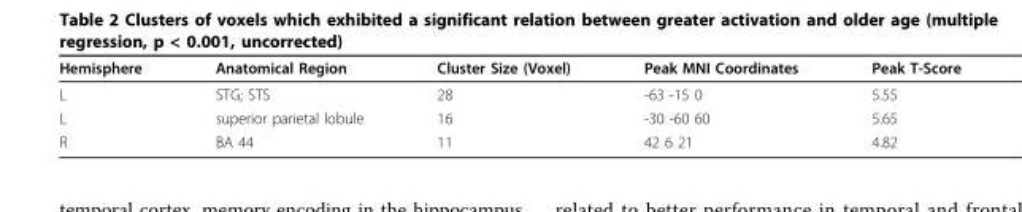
<table><thead><tr><td>Hemisphere</td><td>Anatomical Region</td><td>Cluster Size (Voxel)</td><td>Peak MNI Coordinates</td><td>Peak T-Score</td></tr></thead><tbody><tr><td>L</td><td>STG; STS</td><td>28</td><td>-63 -15 0</td><td>5.55</td></tr><tr><td>L</td><td>superior parietal lobule</td><td>16</td><td>-30 -60 60</td><td>5.65</td></tr><tr><td>R</td><td>BA 44</td><td>11</td><td>42 6 21</td><td>4.82</td></tr></tbody></table>